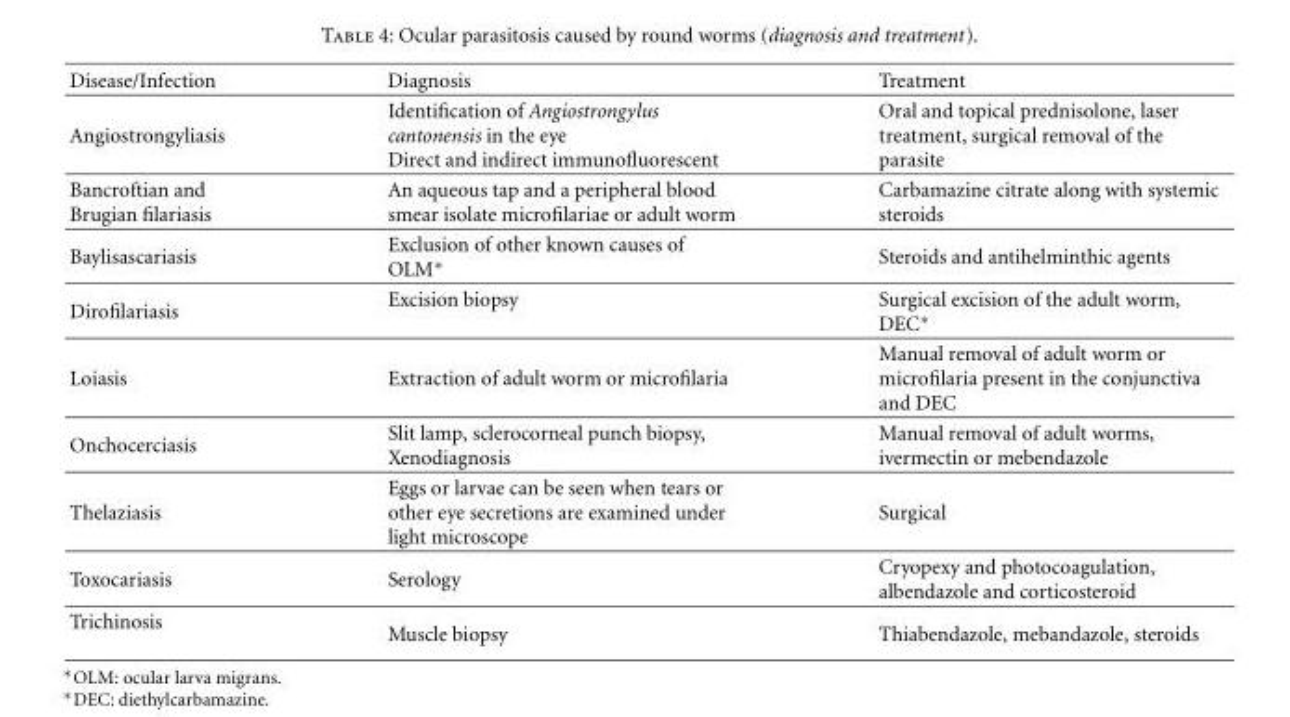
<table><thead><tr><td>Disease/Infection</td><td>Diagnosis</td><td>Treatment</td></tr></thead><tbody><tr><td>Angiostrongyliasis</td><td>Identification of Angiostrongylus cantonensis in the eye Direct and indirect immunofluorescent</td><td>Oral and topical prednisolone, laser treatment, surgical removal of the parasite</td></tr><tr><td>Bancroftian and Brugian filariasis</td><td>An aqueous tap and a peripheral blood smear isolate microfilariae or adult worm</td><td>Carbamazine citrate along with systemic steroids</td></tr><tr><td>Baylisascariasis</td><td>Exclusion of other known causes of OLM∗</td><td>Steroids and antihelminthic agents</td></tr><tr><td>Dirofilariasis</td><td>Excision biopsy</td><td>Surgical excision of the adult worm, DEC∗</td></tr><tr><td>Loiasis</td><td>Extraction of adult worm or microfilaria</td><td>Manual removal of adult worm or microfilaria present in the conjunctiva and DEC</td></tr><tr><td>Onchocerciasis</td><td>Slit lamp, sclerocorneal punch biopsy, Xenodiagnosis</td><td>Manual removal of adult worms, ivermectin or mebendazole</td></tr><tr><td>Thelaziasis</td><td>Eggs or larvae can be seen when tears or other eye secretions are examined under light microscope</td><td>Surgical</td></tr><tr><td>Toxocariasis</td><td>Serology</td><td>Cryopexy and photocoagulation, albendazole and corticosteroid</td></tr><tr><td>Trichinosis</td><td>Muscle biopsy</td><td>Thiabendazole, mebandazole, steroids</td></tr></tbody></table>